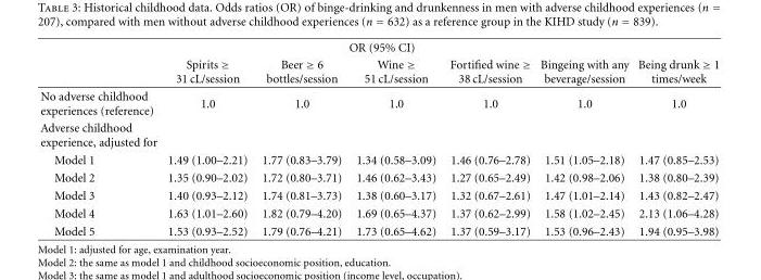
<table><thead><tr><td colspan="7">OR (95% CI)</td></tr><tr><td></td><td>Spirits ≥ 31 cL/session</td><td>Beer ≥ 6 bottles/session</td><td>Wine ≥ 51 cL/session</td><td>Fortified wine ≥ 38 cL/session</td><td>Bingeing with any beverage/session</td><td>Being drunk ≥ 1 times/week</td></tr></thead><tbody><tr><td>No adverse childhood experiences (reference)</td><td>1.0</td><td>1.0</td><td>1.0</td><td>1.0</td><td>1.0</td><td>1.0</td></tr><tr><td colspan="7">Adverse childhood experience, adjusted for</td></tr><tr><td>Model 1</td><td>1.49 (1.00–2.21)</td><td>1.77 (0.83–3.79)</td><td>1.34 (0.58–3.09)</td><td>1.46 (0.76–2.78)</td><td>1.51 (1.05–2.18)</td><td>1.47 (0.85–2.53)</td></tr><tr><td>Model 2</td><td>1.35 (0.90–2.02)</td><td>1.72 (0.80–3.71)</td><td>1.46 (0.62–3.43)</td><td>1.27 (0.65–2.49)</td><td>1.42 (0.98–2.06)</td><td>1.38 (0.80–2.39)</td></tr><tr><td>Model 3</td><td>1.40 (0.93–2.12)</td><td>1.74 (0.81–3.73)</td><td>1.38 (0.60–3.17)</td><td>1.32 (0.67–2.61)</td><td>1.47 (1.01–2.14)</td><td>1.43 (0.82–2.47)</td></tr><tr><td>Model 4</td><td>1.63 (1.01–2.60)</td><td>1.82 (0.79–4.20)</td><td>1.69 (0.65–4.37)</td><td>1.37 (0.62–2.99)</td><td>1.58 (1.02–2.45)</td><td>2.13 (1.06–4.28)</td></tr><tr><td>Model 5</td><td>1.53 (0.93–2.52)</td><td>1.79 (0.76–4.21)</td><td>1.73 (0.65–4.62)</td><td>1.37 (0.59–3.17)</td><td>1.53 (0.96–2.43)</td><td>1.94 (0.95–3.98)</td></tr></tbody></table>